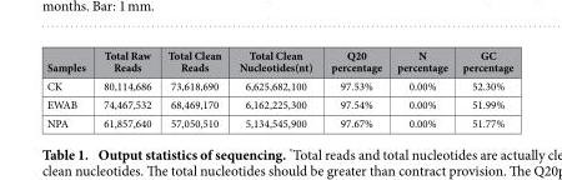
<table><thead><tr><td>Samples</td><td>Total Raw Reads</td><td>Total Clean Reads</td><td>Total Clean Nucleotides(nt)</td><td>Q20 percentage</td><td>N percentage</td><td>GC percentage</td></tr></thead><tbody><tr><td>CK</td><td>80,114,686</td><td>73,618,690</td><td>6,625,682,100</td><td>97.53%</td><td>0.00%</td><td>52.30%</td></tr><tr><td>EWAB</td><td>74,467,532</td><td>68,469,170</td><td>6,162,225,300</td><td>97.54%</td><td>0.00%</td><td>51.99%</td></tr><tr><td>NPA</td><td>61,857,640</td><td>57,050,510</td><td>5,134,545,900</td><td>97.67%</td><td>0.00%</td><td>51.77%</td></tr></tbody></table>